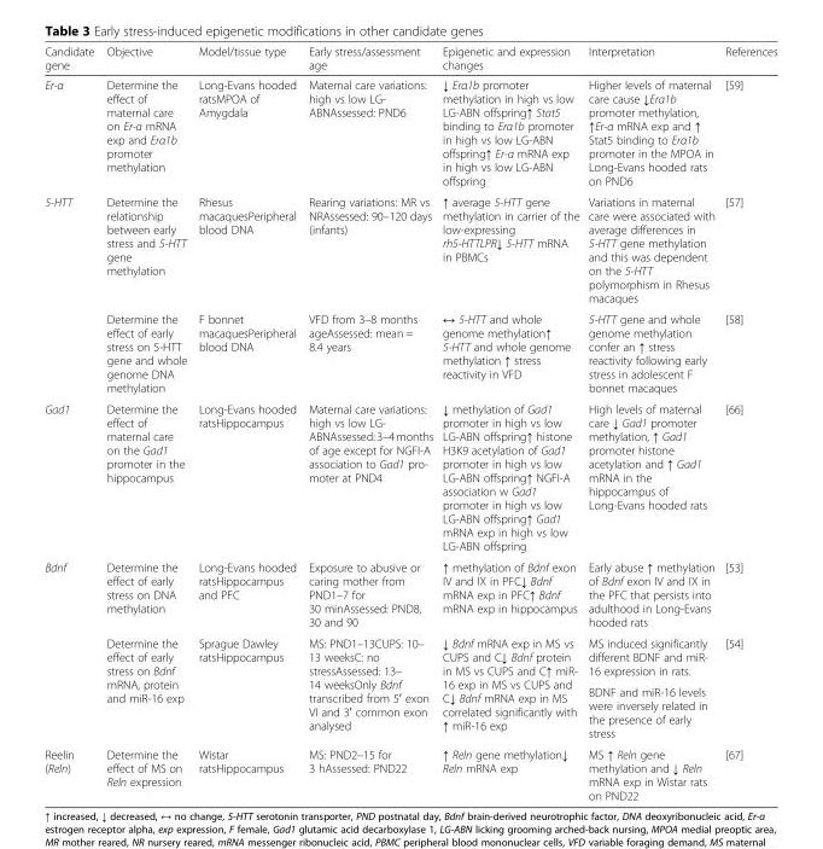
<table><thead><tr><td>Candidate gene</td><td>Objective</td><td>Model/tissue type</td><td>Early stress/assessment age</td><td>Epigenetic and expression changes</td><td>Interpretation</td><td>References</td></tr></thead><tbody><tr><td>Er-α</td><td>Determine the effect of maternal care on Er-α mRNA exp and Erα1b promoter methylation</td><td>Long-Evans hooded ratsMPOA of Amygdala</td><td>Maternal care variations: high vs low LG- ABNAssessed: PND6</td><td>↓ Erα1b promoter methylation in high vs low LG-ABN offspring↑ Stat5 binding to Erα1b promoter in high vs low LG-ABN offspring↑ Er-α mRNA exp in high vs low LG-ABN offspring</td><td>Higher levels of maternal care cause ↓Erα1b promoter methylation, ↑Er-α mRNA exp and ↑ Stat5 binding to Erα1b promoter in the MPOA in Long-Evans hooded rats on PND6</td><td>[59]</td></tr><tr><td rowspan="2">5-HTT</td><td>Determine the relationship between early stress and 5-HTT gene methylation</td><td>Rhesus macaquesPeripheral blood DNA</td><td>Rearing variations: MR vs NRAssessed: 90–120 days (infants)</td><td>↑ average 5-HTT gene methylation in carrier of the low-expressing rh5-HTTLPR↓ 5-HTT mRNA in PBMCs</td><td>Variations in maternal care were associated with average differences in 5-HTT gene methylation and this was dependent on the 5-HTT polymorphism in Rhesus macaques</td><td>[57]</td></tr><tr><td>Determine the effect of early stress on 5-HTT gene and whole genome DNA methylation</td><td>F bonnet macaquesPeripheral blood DNA</td><td>VFD from 3–8 months ageAssessed: mean = 8.4 years</td><td>↔ 5-HTT and whole genome methylation↑ 5-HTT and whole genome methylation ↑ stress reactivity in VFD</td><td>5-HTT gene and whole genome methylation confer an ↑ stress reactivity following early stress in adolescent F bonnet macaques</td><td>[58]</td></tr><tr><td>Gad1</td><td>Determine the effect of maternal care on the Gad1 promoter in the hippocampus</td><td>Long-Evans hooded ratsHippocampus</td><td>Maternal care variations: high vs low LG- ABNAssessed: 3–4 months of age except for NGFI-A association to Gad1 pro- moter at PND4</td><td>↓ methylation of Gad1 promoter in high vs low LG-ABN offspring↑ histone H3K9 acetylation of Gad1 promoter in high vs low LG-ABN offspring↑ NGFI-A association w Gad1 promoter in high vs low LG-ABN offspring↑ Gad1 mRNA exp in high vs low LG-ABN offspring</td><td>High levels of maternal care ↓ Gad1 promoter methylation, ↑ Gad1 promoter histone acetylation and ↑ Gad1 mRNA in the hippocampus of Long-Evans hooded rats</td><td>[66]</td></tr><tr><td rowspan="3">Bdnf</td><td>Determine the effect of early stress on DNA methylation</td><td>Long-Evans hooded ratsHippocampus and PFC</td><td>Exposure to abusive or caring mother from PND1–7 for 30 minAssessed: PND8, 30 and 90</td><td>↑ methylation of Bdnf exon IV and IX in PFC↓ Bdnf mRNA exp in PFC↑ Bdnf mRNA exp in hippocampus</td><td>Early abuse ↑ methylation of Bdnf exon IV and IX in the PFC that persists into adulthood in Long-Evans hooded rats</td><td>[53]</td></tr><tr><td rowspan="2">Determine the effect of early stress on Bdnf mRNA, protein and miR-16 exp</td><td rowspan="2">Sprague Dawley ratsHippocampus</td><td rowspan="2">MS: PND1–13CUPS: 10– 13 weeksC: no stressAssessed: 13– 14 weeksOnly Bdnf transcribed from 5ʹ exon VI and 3ʹ common exon analysed</td><td rowspan="2">↓ Bdnf mRNA exp in MS vs CUPS and C↓ Bdnf protein in MS vs CUPS and C↑ miR- 16 exp in MS vs CUPS and C↓ Bdnf mRNA exp in MS correlated significantly with ↑ miR-16 exp</td><td>MS induced significantly different BDNF and miR- 16 expression in rats.</td><td rowspan="2">[54]</td></tr><tr><td>BDNF and miR-16 levels were inversely related in the presence of early stress</td></tr><tr><td>Reelin (Reln)</td><td>Determine the effect of MS on Reln expression</td><td>Wistar ratsHippocampus</td><td>MS: PND2–15 for 3 hAssessed: PND22</td><td>↑ Reln gene methylation↓ Reln mRNA exp</td><td>MS ↑ Reln gene methylation and ↓ Reln mRNA exp in Wistar rats on PND22</td><td>[67]</td></tr></tbody></table>